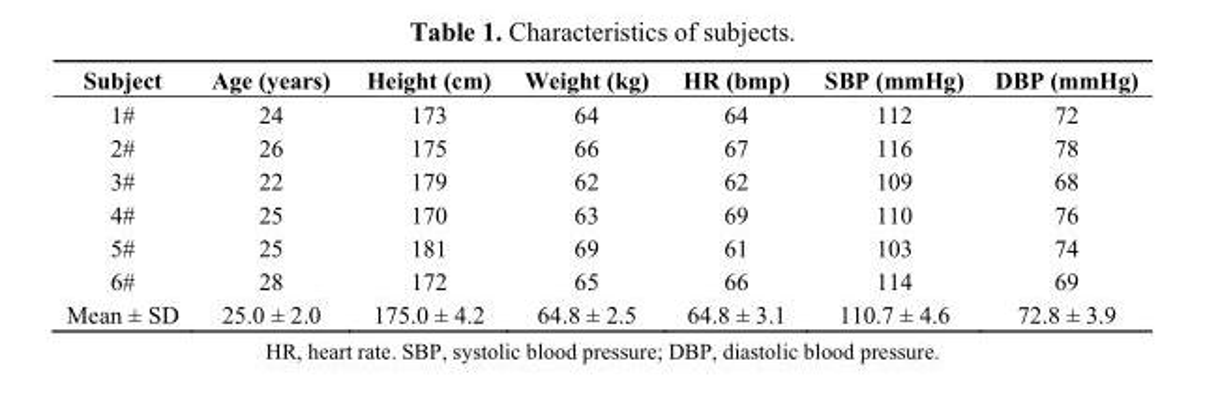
<table><thead><tr><td>Subject</td><td>Age (years)</td><td>Height (cm)</td><td>Weight (kg)</td><td>HR (bmp)</td><td>SBP (mmHg)</td><td>DBP (mmHg)</td></tr></thead><tbody><tr><td>1#</td><td>24</td><td>173</td><td>64</td><td>64</td><td>112</td><td>72</td></tr><tr><td>2#</td><td>26</td><td>175</td><td>66</td><td>67</td><td>116</td><td>78</td></tr><tr><td>3#</td><td>22</td><td>179</td><td>62</td><td>62</td><td>109</td><td>68</td></tr><tr><td>4#</td><td>25</td><td>170</td><td>63</td><td>69</td><td>110</td><td>76</td></tr><tr><td>5#</td><td>25</td><td>181</td><td>69</td><td>61</td><td>103</td><td>74</td></tr><tr><td>6#</td><td>28</td><td>172</td><td>65</td><td>66</td><td>114</td><td>69</td></tr><tr><td>Mean ± SD</td><td>25.0 ± 2.0</td><td>175.0 ± 4.2</td><td>64.8 ± 2.5</td><td>64.8 ± 3.1</td><td>110.7 ± 4.6</td><td>72.8 ± 3.9</td></tr></tbody></table>